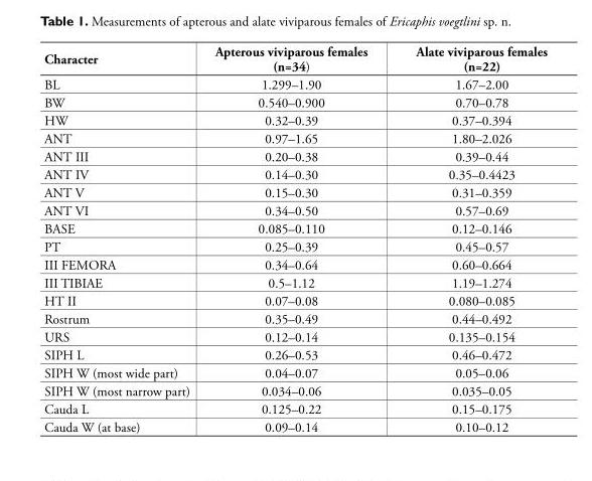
<table><tbody><tr><td>Character</td><td>Apterous viviparous females (n=34)</td><td>Alate viviparous females (n=22)</td></tr><tr><td>BL</td><td>1.299–1.90</td><td>1.67–2.00</td></tr><tr><td>BW</td><td>0.540–0.900</td><td>0.70–0.78</td></tr><tr><td>HW</td><td>0.32–0.39</td><td>0.37–0.394</td></tr><tr><td>ANT</td><td>0.97–1.65</td><td>1.80–2.026</td></tr><tr><td>ANT III</td><td>0.20–0.38</td><td>0.39–0.44</td></tr><tr><td>ANT IV</td><td>0.14–0.30</td><td>0.35–0.4423</td></tr><tr><td>ANT V</td><td>0.15–0.30</td><td>0.31–0.359</td></tr><tr><td>ANT VI</td><td>0.34–0.50</td><td>0.57–0.69</td></tr><tr><td>BASE</td><td>0.085–0.110</td><td>0.12–0.146</td></tr><tr><td>PT</td><td>0.25–0.39</td><td>0.45–0.57</td></tr><tr><td>III FEMORA</td><td>0.34–0.64</td><td>0.60–0.664</td></tr><tr><td>III TIBIAE</td><td>0.5–1.12</td><td>1.19–1.274</td></tr><tr><td>HT II</td><td>0.07–0.08</td><td>0.080–0.085</td></tr><tr><td>Rostrum</td><td>0.35–0.49</td><td>0.44–0.492</td></tr><tr><td>URS</td><td>0.12–0.14</td><td>0.135–0.154</td></tr><tr><td>SIPH L</td><td>0.26–0.53</td><td>0.46–0.472</td></tr><tr><td>SIPH W (most wide part)</td><td>0.04–0.07</td><td>0.05–0.06</td></tr><tr><td>SIPH W (most narrow part)</td><td>0.034–0.06</td><td>0.035–0.05</td></tr><tr><td>Cauda L</td><td>0.125–0.22</td><td>0.15–0.175</td></tr><tr><td>Cauda W (at base)</td><td>0.09–0.14</td><td>0.10–0.12</td></tr></tbody></table>